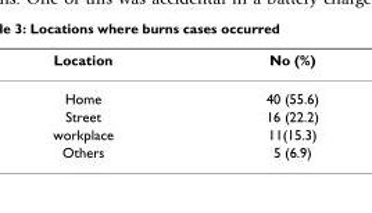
<table><thead><tr><td>Location</td><td>No (%)</td></tr></thead><tbody><tr><td>Home</td><td>40 (55.6)</td></tr><tr><td>Street</td><td>16 (22.2)</td></tr><tr><td>workplace</td><td>11(15.3)</td></tr><tr><td>Others</td><td>5 (6.9)</td></tr></tbody></table>